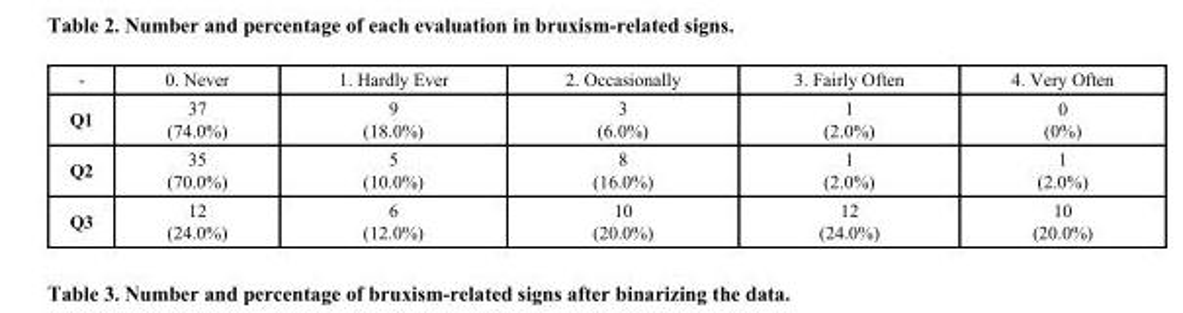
<table><tbody><tr><td>-</td><td>0. Never</td><td>1. Hardly Ever</td><td>2. Occasionally</td><td>3. Fairly Often</td><td>4. Very Often</td></tr><tr><td>Q1</td><td>37 (74.0%)</td><td>9 (18.0%)</td><td>3 (6.0%)</td><td>1 (2.0%)</td><td>0 (0%)</td></tr><tr><td>Q2</td><td>35 (70.0%)</td><td>5 (10.0%)</td><td>8 (16.0%)</td><td>1 (2.0%)</td><td>1 (2.0%)</td></tr><tr><td>Q3</td><td>12 (24.0%)</td><td>6 (12.0%)</td><td>10 (20.0%)</td><td>12 (24.0%)</td><td>10 (20.0%)</td></tr></tbody></table>